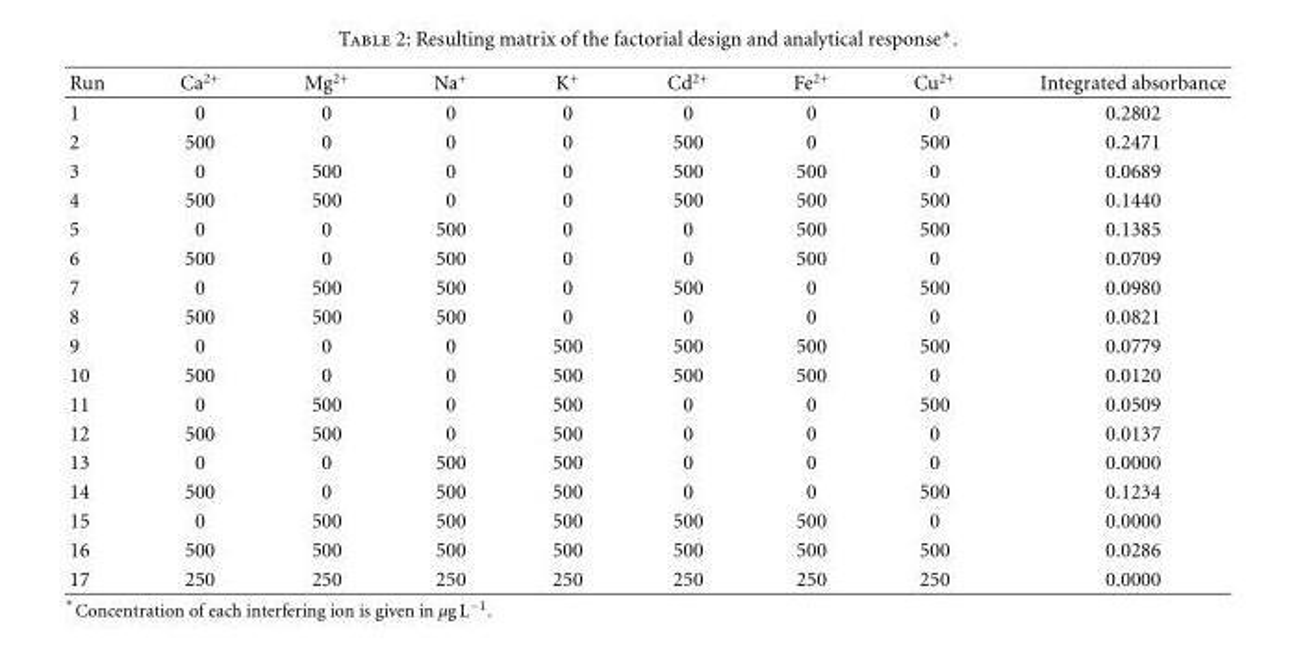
<table><thead><tr><td>Run</td><td>Ca<sup>2+</sup></td><td>Mg<sup>2+</sup></td><td>Na<sup>+</sup></td><td>K<sup>+</sup></td><td>Cd<sup>2+</sup></td><td>Fe<sup>2+</sup></td><td>Cu<sup>2+</sup></td><td>Integrated absorbance</td></tr></thead><tbody><tr><td>1</td><td>0</td><td>0</td><td>0</td><td>0</td><td>0</td><td>0</td><td>0</td><td>0.2802</td></tr><tr><td>2</td><td>500</td><td>0</td><td>0</td><td>0</td><td>500</td><td>0</td><td>500</td><td>0.2471</td></tr><tr><td>3</td><td>0</td><td>500</td><td>0</td><td>0</td><td>500</td><td>500</td><td>0</td><td>0.0689</td></tr><tr><td>4</td><td>500</td><td>500</td><td>0</td><td>0</td><td>500</td><td>500</td><td>500</td><td>0.1440</td></tr><tr><td>5</td><td>0</td><td>0</td><td>500</td><td>0</td><td>0</td><td>500</td><td>500</td><td>0.1385</td></tr><tr><td>6</td><td>500</td><td>0</td><td>500</td><td>0</td><td>0</td><td>500</td><td>0</td><td>0.0709</td></tr><tr><td>7</td><td>0</td><td>500</td><td>500</td><td>0</td><td>500</td><td>0</td><td>500</td><td>0.0980</td></tr><tr><td>8</td><td>500</td><td>500</td><td>500</td><td>0</td><td>0</td><td>0</td><td>0</td><td>0.0821</td></tr><tr><td>9</td><td>0</td><td>0</td><td>0</td><td>500</td><td>500</td><td>500</td><td>500</td><td>0.0779</td></tr><tr><td>10</td><td>500</td><td>0</td><td>0</td><td>500</td><td>500</td><td>500</td><td>0</td><td>0.0120</td></tr><tr><td>11</td><td>0</td><td>500</td><td>0</td><td>500</td><td>0</td><td>0</td><td>500</td><td>0.0509</td></tr><tr><td>12</td><td>500</td><td>500</td><td>0</td><td>500</td><td>0</td><td>0</td><td>0</td><td>0.0137</td></tr><tr><td>13</td><td>0</td><td>0</td><td>500</td><td>500</td><td>0</td><td>0</td><td>0</td><td>0.0000</td></tr><tr><td>14</td><td>500</td><td>0</td><td>500</td><td>500</td><td>0</td><td>0</td><td>500</td><td>0.1234</td></tr><tr><td>15</td><td>0</td><td>500</td><td>500</td><td>500</td><td>500</td><td>500</td><td>0</td><td>0.0000</td></tr><tr><td>16</td><td>500</td><td>500</td><td>500</td><td>500</td><td>500</td><td>500</td><td>500</td><td>0.0286</td></tr><tr><td>17</td><td>250</td><td>250</td><td>250</td><td>250</td><td>250</td><td>250</td><td>250</td><td>0.0000</td></tr></tbody></table>